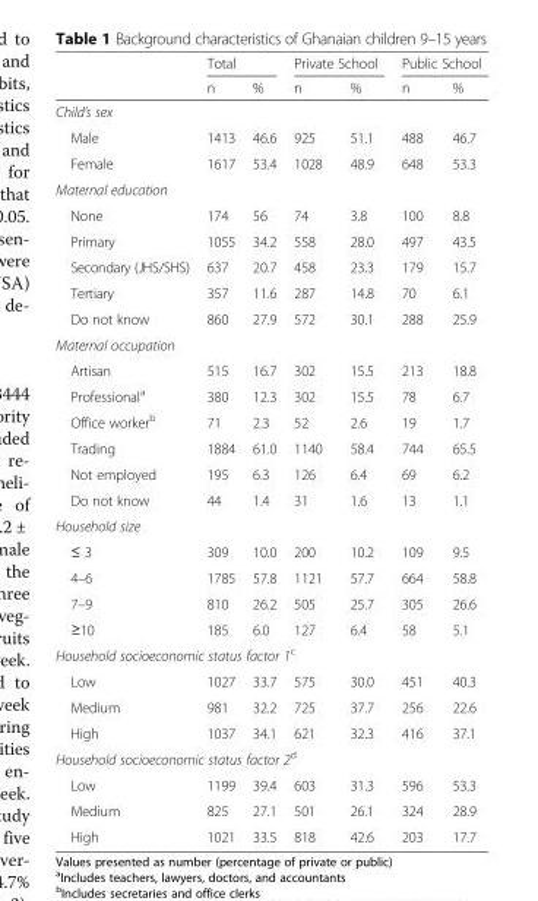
<table><thead><tr><td rowspan="2"></td><td colspan="2">Total</td><td colspan="2">Private School</td><td colspan="2">Public School</td></tr><tr><td>n</td><td>%</td><td>n</td><td>%</td><td>n</td><td>%</td></tr></thead><tbody><tr><td colspan="7">Child’s sex</td></tr><tr><td>Male</td><td>1413</td><td>46.6</td><td>925</td><td>51.1</td><td>488</td><td>46.7</td></tr><tr><td>Female</td><td>1617</td><td>53.4</td><td>1028</td><td>48.9</td><td>648</td><td>53.3</td></tr><tr><td colspan="7">Maternal education</td></tr><tr><td>None</td><td>174</td><td>56</td><td>74</td><td>3.8</td><td>100</td><td>8.8</td></tr><tr><td>Primary</td><td>1055</td><td>34.2</td><td>558</td><td>28.0</td><td>497</td><td>43.5</td></tr><tr><td>Secondary (JHS/SHS)</td><td>637</td><td>20.7</td><td>458</td><td>23.3</td><td>179</td><td>15.7</td></tr><tr><td>Tertiary</td><td>357</td><td>11.6</td><td>287</td><td>14.8</td><td>70</td><td>6.1</td></tr><tr><td>Do not know</td><td>860</td><td>27.9</td><td>572</td><td>30.1</td><td>288</td><td>25.9</td></tr><tr><td colspan="7">Maternal occupation</td></tr><tr><td>Artisan</td><td>515</td><td>16.7</td><td>302</td><td>15.5</td><td>213</td><td>18.8</td></tr><tr><td>Professional<sup>a</sup></td><td>380</td><td>12.3</td><td>302</td><td>15.5</td><td>78</td><td>6.7</td></tr><tr><td>Office worker<sup>b</sup></td><td>71</td><td>2.3</td><td>52</td><td>2.6</td><td>19</td><td>1.7</td></tr><tr><td>Trading</td><td>1884</td><td>61.0</td><td>1140</td><td>58.4</td><td>744</td><td>65.5</td></tr><tr><td>Not employed</td><td>195</td><td>6.3</td><td>126</td><td>6.4</td><td>69</td><td>6.2</td></tr><tr><td>Do not know</td><td>44</td><td>1.4</td><td>31</td><td>1.6</td><td>13</td><td>1.1</td></tr><tr><td colspan="7">Household size</td></tr><tr><td>≤ 3</td><td>309</td><td>10.0</td><td>200</td><td>10.2</td><td>109</td><td>9.5</td></tr><tr><td>4–6</td><td>1785</td><td>57.8</td><td>1121</td><td>57.7</td><td>664</td><td>58.8</td></tr><tr><td>7–9</td><td>810</td><td>26.2</td><td>505</td><td>25.7</td><td>305</td><td>26.6</td></tr><tr><td>≥10</td><td>185</td><td>6.0</td><td>127</td><td>6.4</td><td>58</td><td>5.1</td></tr><tr><td colspan="7">Household socioeconomic status factor 1<sup>c</sup></td></tr><tr><td>Low</td><td>1027</td><td>33.7</td><td>575</td><td>30.0</td><td>451</td><td>40.3</td></tr><tr><td>Medium</td><td>981</td><td>32.2</td><td>725</td><td>37.7</td><td>256</td><td>22.6</td></tr><tr><td>High</td><td>1037</td><td>34.1</td><td>621</td><td>32.3</td><td>416</td><td>37.1</td></tr><tr><td colspan="7">Household socioeconomic status factor 2<sup>d</sup></td></tr><tr><td>Low</td><td>1199</td><td>39.4</td><td>603</td><td>31.3</td><td>596</td><td>53.3</td></tr><tr><td>Medium</td><td>825</td><td>27.1</td><td>501</td><td>26.1</td><td>324</td><td>28.9</td></tr><tr><td>High</td><td>1021</td><td>33.5</td><td>818</td><td>42.6</td><td>203</td><td>17.7</td></tr></tbody></table>